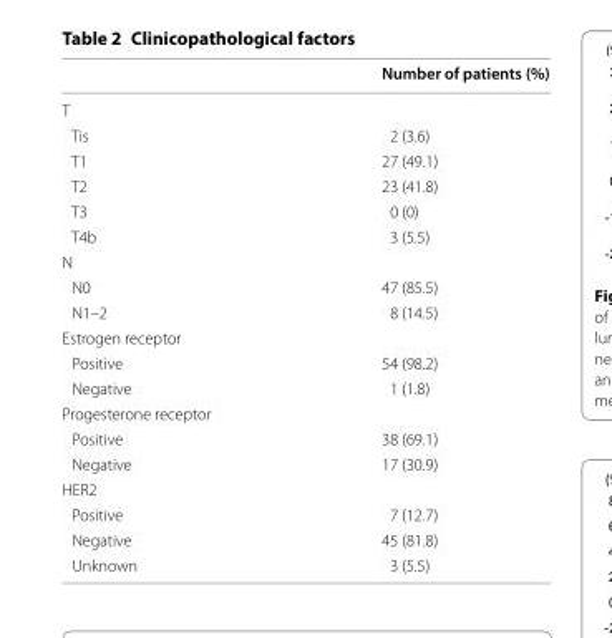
<table><thead><tr><td></td><td>Number of patients (%)</td></tr></thead><tbody><tr><td colspan="2">T</td></tr><tr><td>Tis</td><td>2 (3.6)</td></tr><tr><td>T1</td><td>27 (49.1)</td></tr><tr><td>T2</td><td>23 (41.8)</td></tr><tr><td>T3</td><td>0 (0)</td></tr><tr><td>T4b</td><td>3 (5.5)</td></tr><tr><td colspan="2">N</td></tr><tr><td>N0</td><td>47 (85.5)</td></tr><tr><td>N1–2</td><td>8 (14.5)</td></tr><tr><td colspan="2">Estrogen receptor</td></tr><tr><td>Positive</td><td>54 (98.2)</td></tr><tr><td>Negative</td><td>1 (1.8)</td></tr><tr><td colspan="2">Progesterone receptor</td></tr><tr><td>Positive</td><td>38 (69.1)</td></tr><tr><td>Negative</td><td>17 (30.9)</td></tr><tr><td colspan="2">HER2</td></tr><tr><td>Positive</td><td>7 (12.7)</td></tr><tr><td>Negative</td><td>45 (81.8)</td></tr><tr><td>Unknown</td><td>3 (5.5)</td></tr></tbody></table>